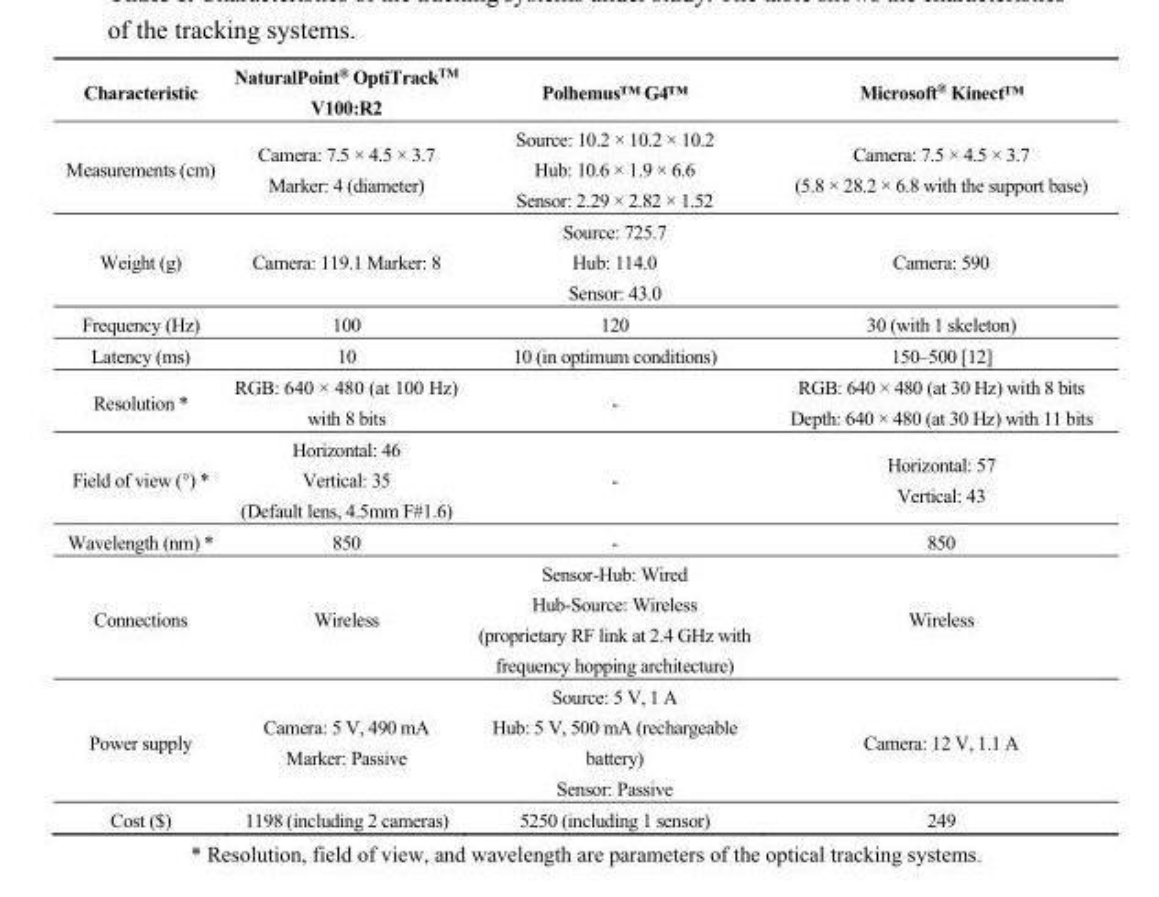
<table><thead><tr><td>Characteristic</td><td>NaturalPoint<sup>®</sup> OptiTrack<sup>TM</sup> V100:R2</td><td>Polhemus™ G4™</td><td>Microsoft<sup>®</sup> Kinect™</td></tr></thead><tbody><tr><td>Measurements (cm)</td><td>Camera: 7.5 × 4.5 × 3.7 Marker: 4 (diameter)</td><td>Source: 10.2 × 10.2 × 10.2 Hub: 10.6 × 1.9 × 6.6 Sensor: 2.29 × 2.82 × 1.52</td><td>Camera: 7.5 × 4.5 × 3.7 (5.8 × 28.2 × 6.8 with the support base)</td></tr><tr><td>Weight (g)</td><td>Camera: 119.1 Marker: 8</td><td>Source: 725.7 Hub: 114.0 Sensor: 43.0</td><td>Camera: 590</td></tr><tr><td>Frequency (Hz)</td><td>100</td><td>120</td><td>30 (with 1 skeleton)</td></tr><tr><td>Latency (ms)</td><td>10</td><td>10 (in optimum conditions)</td><td>150–500 [12]</td></tr><tr><td>Resolution *</td><td>RGB: 640 × 480 (at 100 Hz) with 8 bits</td><td>-</td><td>RGB: 640 × 480 (at 30 Hz) with 8 bits Depth: 640 × 480 (at 30 Hz) with 11 bits</td></tr><tr><td>Field of view (°) *</td><td>Horizontal: 46 Vertical: 35 (Default lens, 4.5mm F#1.6)</td><td>-</td><td>Horizontal: 57 Vertical: 43</td></tr><tr><td>Wavelength (nm) *</td><td>850</td><td>-</td><td>850</td></tr><tr><td>Connections</td><td>Wireless</td><td>Sensor-Hub: Wired Hub-Source: Wireless (proprietary RF link at 2.4 GHz with frequency hopping architecture)</td><td>Wireless</td></tr><tr><td>Power supply</td><td>Camera: 5 V, 490 mA Marker: Passive</td><td>Source: 5 V, 1 A Hub: 5 V, 500 mA (rechargeable battery) Sensor: Passive</td><td>Camera: 12 V, 1.1 A</td></tr><tr><td>Cost ($)</td><td>1198 (including 2 cameras)</td><td>5250 (including 1 sensor)</td><td>249</td></tr></tbody></table>